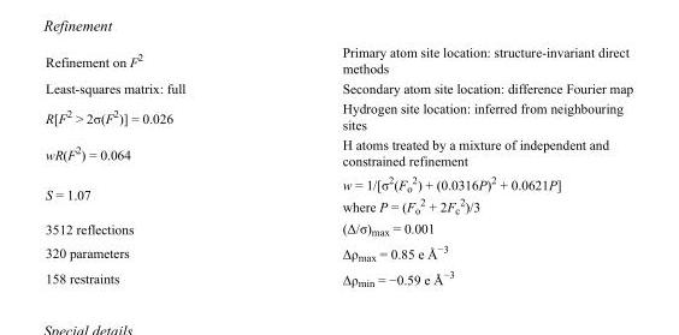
<table><tbody><tr><td>Refinement on F<sup>2</sup></td><td>Primary atom site location: structure-invariant direct methods</td></tr><tr><td>Least-squares matrix: full</td><td>Secondary atom site location: difference Fourier map</td></tr><tr><td>R[F<sup>2</sup> &gt; 2σ(F<sup>2</sup>)] = 0.026</td><td>Hydrogen site location: inferred from neighbouring sites</td></tr><tr><td>wR(F<sup>2</sup>) = 0.064</td><td>H atoms treated by a mixture of independent and constrained refinement</td></tr><tr><td>S = 1.07</td><td>w = 1/[σ<sup>2</sup>(F<sub>o</sub> <sup>2</sup>) + (0.0316P)<sup>2</sup> + 0.0621P] where P = (F<sub>o</sub> <sup>2</sup> + 2F<sub>c</sub> <sup>2</sup>)/3</td></tr><tr><td>3512 reflections</td><td>(Δ/σ)<sub>max</sub> = 0.001</td></tr><tr><td>320 parameters</td><td>Δρ<sub>max</sub> = 0.85 e Å<sup>−3</sup></td></tr><tr><td>158 restraints</td><td>Δρ<sub>min</sub> = −0.59 e Å<sup>−3</sup></td></tr></tbody></table>